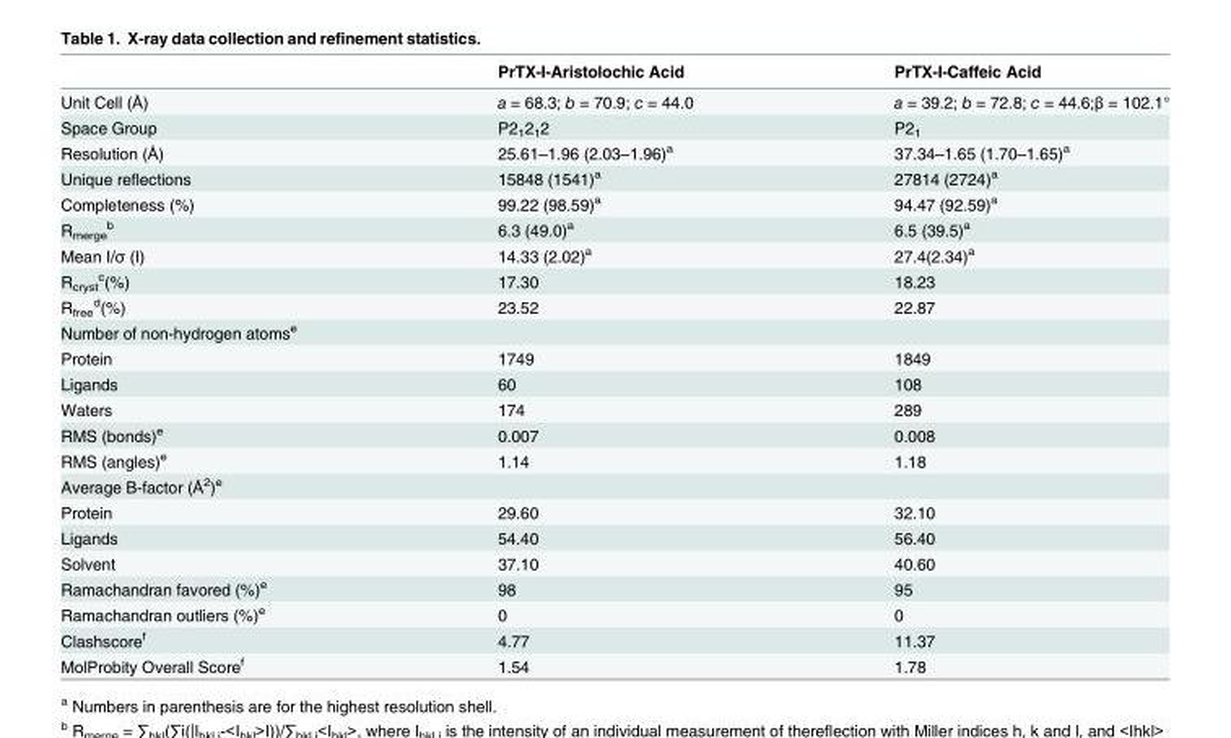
<table><thead><tr><td></td><td>PrTX-I-Aristolochic Acid</td><td>PrTX-I-Caffeic Acid</td></tr></thead><tbody><tr><td>Unit Cell (Å)</td><td>a = 68.3; b = 70.9; c = 44.0</td><td>a = 39.2; b = 72.8; c = 44.6;β = 102.1°</td></tr><tr><td>Space Group</td><td>P2<sub>1</sub>2<sub>1</sub>2</td><td>P2<sub>1</sub></td></tr><tr><td>Resolution (Å)</td><td>25.61–1.96 (2.03–1.96)<sup>a</sup></td><td>37.34–1.65 (1.70–1.65)<sup>a</sup></td></tr><tr><td>Unique reflections</td><td>15848 (1541)<sup>a</sup></td><td>27814 (2724)<sup>a</sup></td></tr><tr><td>Completeness (%)</td><td>99.22 (98.59)<sup>a</sup></td><td>94.47 (92.59)<sup>a</sup></td></tr><tr><td>R<sub>merge</sub> <sup>b</sup></td><td>6.3 (49.0)<sup>a</sup></td><td>6.5 (39.5)<sup>a</sup></td></tr><tr><td>Mean I/σ (I)</td><td>14.33 (2.02)<sup>a</sup></td><td>27.4(2.34)<sup>a</sup></td></tr><tr><td>R<sub>cryst</sub> <sup>c</sup>(%)</td><td>17.30</td><td>18.23</td></tr><tr><td>R<sub>free</sub> <sup>d</sup>(%)</td><td>23.52</td><td>22.87</td></tr><tr><td colspan="3">Number of non-hydrogen atoms<sup>e</sup></td></tr><tr><td>Protein</td><td>1749</td><td>1849</td></tr><tr><td>Ligands</td><td>60</td><td>108</td></tr><tr><td>Waters</td><td>174</td><td>289</td></tr><tr><td>RMS (bonds)<sup>e</sup></td><td>0.007</td><td>0.008</td></tr><tr><td>RMS (angles)<sup>e</sup></td><td>1.14</td><td>1.18</td></tr><tr><td colspan="3">Average B-factor (Å<sup>2</sup>)<sup>e</sup></td></tr><tr><td>Protein</td><td>29.60</td><td>32.10</td></tr><tr><td>Ligands</td><td>54.40</td><td>56.40</td></tr><tr><td>Solvent</td><td>37.10</td><td>40.60</td></tr><tr><td>Ramachandran favored (%)<sup>e</sup></td><td>98</td><td>95</td></tr><tr><td>Ramachandran outliers (%)<sup>e</sup></td><td>0</td><td>0</td></tr><tr><td>Clashscore<sup>f</sup></td><td>4.77</td><td>11.37</td></tr><tr><td>MolProbity Overall Score<sup>f</sup></td><td>1.54</td><td>1.78</td></tr></tbody></table>